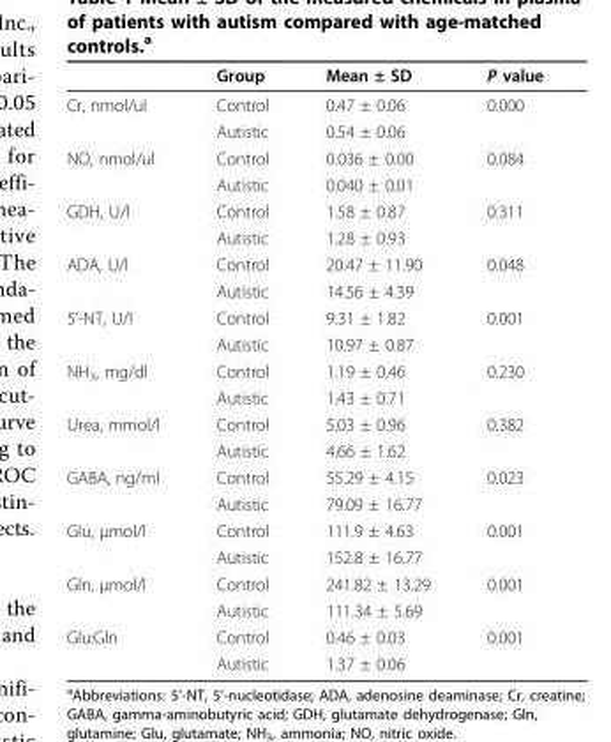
<table><thead><tr><td></td><td>Group</td><td>Mean ± SD</td><td>P value</td></tr></thead><tbody><tr><td rowspan="2">Cr, nmol/ul</td><td>Control</td><td>0.47 ± 0.06</td><td>0.000</td></tr><tr><td>Autistic</td><td>0.54 ± 0.06</td><td></td></tr><tr><td rowspan="2">NO, nmol/ul</td><td>Control</td><td>0.036 ± 0.00</td><td>0.084</td></tr><tr><td>Autistic</td><td>0.040 ± 0.01</td><td></td></tr><tr><td rowspan="2">GDH, U/l</td><td>Control</td><td>1.58 ± 0.87</td><td>0.311</td></tr><tr><td>Autistic</td><td>1.28 ± 0.93</td><td></td></tr><tr><td rowspan="2">ADA, U/l</td><td>Control</td><td>20.47 ± 11.90</td><td>0.048</td></tr><tr><td>Autistic</td><td>14.56 ± 4.39</td><td></td></tr><tr><td rowspan="2">5’-NT, U/l</td><td>Control</td><td>9.31 ± 1.82</td><td>0.001</td></tr><tr><td>Autistic</td><td>10.97 ± 0.87</td><td></td></tr><tr><td rowspan="2">NH<sub>3</sub>, mg/dl</td><td>Control</td><td>1.19 ± 0.46</td><td>0.230</td></tr><tr><td>Autistic</td><td>1.43 ± 0.71</td><td></td></tr><tr><td rowspan="2">Urea, mmol/l</td><td>Control</td><td>5.03 ± 0.96</td><td>0.382</td></tr><tr><td>Autistic</td><td>4.66 ± 1.62</td><td></td></tr><tr><td rowspan="2">GABA, ng/ml</td><td>Control</td><td>55.29 ± 4.15</td><td>0.023</td></tr><tr><td>Autistic</td><td>79.09 ± 16.77</td><td></td></tr><tr><td rowspan="2">Glu, μmol/l</td><td>Control</td><td>111.9 ± 4.63</td><td>0.001</td></tr><tr><td>Autistic</td><td>152.8 ± 16.77</td><td></td></tr><tr><td rowspan="2">Gln, μmol/l</td><td>Control</td><td>241.82 ± 13.29</td><td>0.001</td></tr><tr><td>Autistic</td><td>111.34 ± 5.69</td><td></td></tr><tr><td rowspan="2">Glu:Gln</td><td>Control</td><td>0.46 ± 0.03</td><td>0.001</td></tr><tr><td>Autistic</td><td>1.37 ± 0.06</td><td></td></tr></tbody></table>